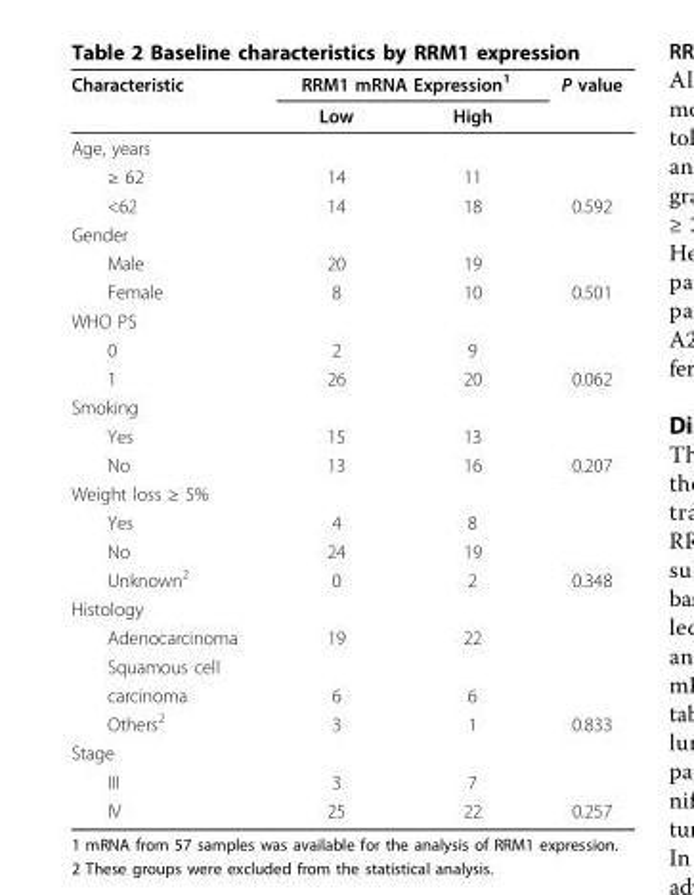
<table><thead><tr><td rowspan="2">Characteristic</td><td colspan="2">RRM1 mRNA Expression<sup>1</sup></td><td rowspan="2">P value</td></tr><tr><td>Low</td><td>High</td></tr></thead><tbody><tr><td colspan="4">Age, years</td></tr><tr><td>≥ 62</td><td>14</td><td>11</td><td></td></tr><tr><td>&lt;62</td><td>14</td><td>18</td><td>0.592</td></tr><tr><td colspan="4">Gender</td></tr><tr><td>Male</td><td>20</td><td>19</td><td></td></tr><tr><td>Female</td><td>8</td><td>10</td><td>0.501</td></tr><tr><td colspan="4">WHO PS</td></tr><tr><td>0</td><td>2</td><td>9</td><td></td></tr><tr><td>1</td><td>26</td><td>20</td><td>0.062</td></tr><tr><td colspan="4">Smoking</td></tr><tr><td>Yes</td><td>15</td><td>13</td><td></td></tr><tr><td>No</td><td>13</td><td>16</td><td>0.207</td></tr><tr><td colspan="4">Weight loss ≥ 5%</td></tr><tr><td>Yes</td><td>4</td><td>8</td><td></td></tr><tr><td>No</td><td>24</td><td>19</td><td></td></tr><tr><td>Unknown<sup>2</sup></td><td>0</td><td>2</td><td>0.348</td></tr><tr><td colspan="4">Histology</td></tr><tr><td>Adenocarcinoma</td><td>19</td><td>22</td><td></td></tr><tr><td colspan="4">Squamous cell</td></tr><tr><td>carcinoma</td><td>6</td><td>6</td><td></td></tr><tr><td>Others<sup>2</sup></td><td>3</td><td>1</td><td>0.833</td></tr><tr><td colspan="4">Stage</td></tr><tr><td>III</td><td>3</td><td>7</td><td></td></tr><tr><td>IV</td><td>25</td><td>22</td><td>0.257</td></tr></tbody></table>